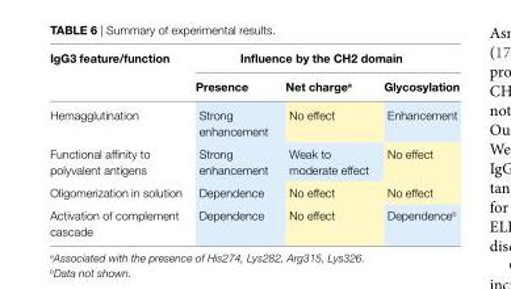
<table><thead><tr><td rowspan="2">igg3 feature/function</td><td colspan="3">influence by the ch2 domain</td></tr><tr><td>Presence</td><td>net charge<sup>a</sup></td><td>glycosylation</td></tr></thead><tbody><tr><td>Hemagglutination</td><td>Strong enhancement</td><td>No effect</td><td>Enhancement</td></tr><tr><td>Functional affinity to polyvalent antigens</td><td>Strong enhancement</td><td>Weak to moderate effect</td><td>No effect</td></tr><tr><td>Oligomerization in solution</td><td>Dependence</td><td>No effect</td><td>No effect</td></tr><tr><td>Activation of complement cascade</td><td>Dependence</td><td>No effect</td><td>Dependence<sup>b</sup></td></tr></tbody></table>